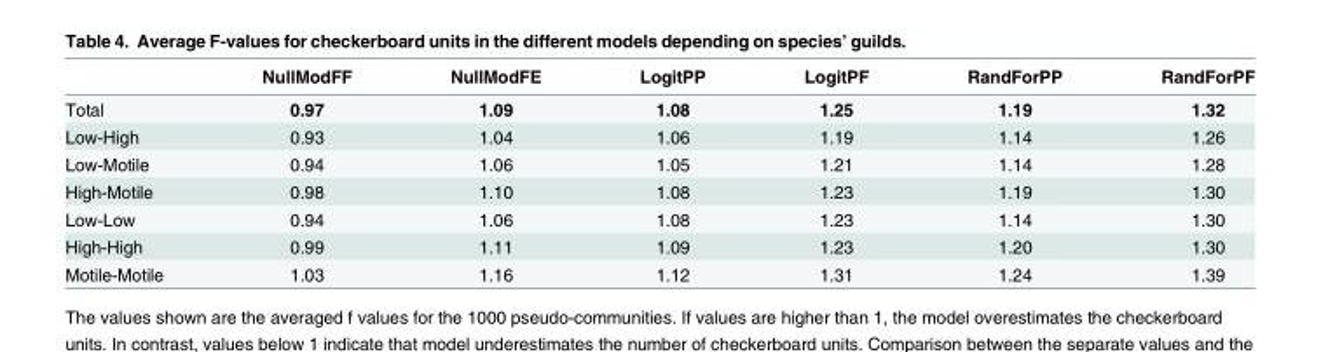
<table><thead><tr><td></td><td>NullModFF</td><td>NullModFE</td><td>LogitPP</td><td>LogitPF</td><td>RandForPP</td><td>RandForPF</td></tr></thead><tbody><tr><td>Total</td><td>0.97</td><td>1.09</td><td>1.08</td><td>1.25</td><td>1.19</td><td>1.32</td></tr><tr><td>Low-High</td><td>0.93</td><td>1.04</td><td>1.06</td><td>1.19</td><td>1.14</td><td>1.26</td></tr><tr><td>Low-Motile</td><td>0.94</td><td>1.06</td><td>1.05</td><td>1.21</td><td>1.14</td><td>1.28</td></tr><tr><td>High-Motile</td><td>0.98</td><td>1.10</td><td>1.08</td><td>1.23</td><td>1.19</td><td>1.30</td></tr><tr><td>Low-Low</td><td>0.94</td><td>1.06</td><td>1.08</td><td>1.23</td><td>1.14</td><td>1.30</td></tr><tr><td>High-High</td><td>0.99</td><td>1.11</td><td>1.09</td><td>1.23</td><td>1.20</td><td>1.30</td></tr><tr><td>Motile-Motile</td><td>1.03</td><td>1.16</td><td>1.12</td><td>1.31</td><td>1.24</td><td>1.39</td></tr></tbody></table>